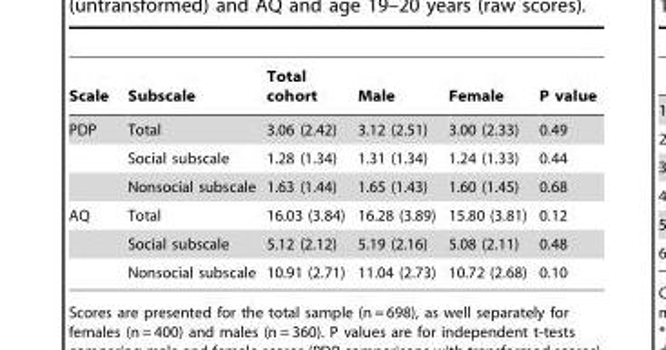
<table><thead><tr><td>Scale</td><td>Subscale</td><td>Total cohort</td><td>Male</td><td>Female</td><td>P value</td></tr></thead><tbody><tr><td rowspan="3">PDP</td><td>Total</td><td>3.06 (2.42)</td><td>3.12 (2.51)</td><td>3.00 (2.33)</td><td>0.49</td></tr><tr><td>Social subscale</td><td>1.28 (1.34)</td><td>1.31 (1.34)</td><td>1.24 (1.33)</td><td>0.44</td></tr><tr><td>Nonsocial subscale</td><td>1.63 (1.44)</td><td>1.65 (1.43)</td><td>1.60 (1.45)</td><td>0.68</td></tr><tr><td rowspan="3">AQ</td><td>Total</td><td>16.03 (3.84)</td><td>16.28 (3.89)</td><td>15.80 (3.81)</td><td>0.12</td></tr><tr><td>Social subscale</td><td>5.12 (2.12)</td><td>5.19 (2.16)</td><td>5.08 (2.11)</td><td>0.48</td></tr><tr><td>Nonsocial subscale</td><td>10.91 (2.71)</td><td>11.04 (2.73)</td><td>10.72 (2.68)</td><td>0.10</td></tr></tbody></table>